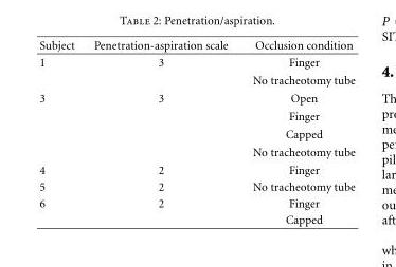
<table><thead><tr><td>Subject</td><td>Penetration-aspiration scale</td><td>Occlusion condition</td></tr></thead><tbody><tr><td rowspan="2">1</td><td>3</td><td>Finger</td></tr><tr><td></td><td>No tracheotomy tube</td></tr><tr><td rowspan="4">3</td><td>3</td><td>Open</td></tr><tr><td></td><td>Finger</td></tr><tr><td></td><td>Capped</td></tr><tr><td></td><td>No tracheotomy tube</td></tr><tr><td>4</td><td>2</td><td>Finger</td></tr><tr><td>5</td><td>2</td><td>No tracheotomy tube</td></tr><tr><td rowspan="2">6</td><td>2</td><td>Finger</td></tr><tr><td></td><td>Capped</td></tr></tbody></table>